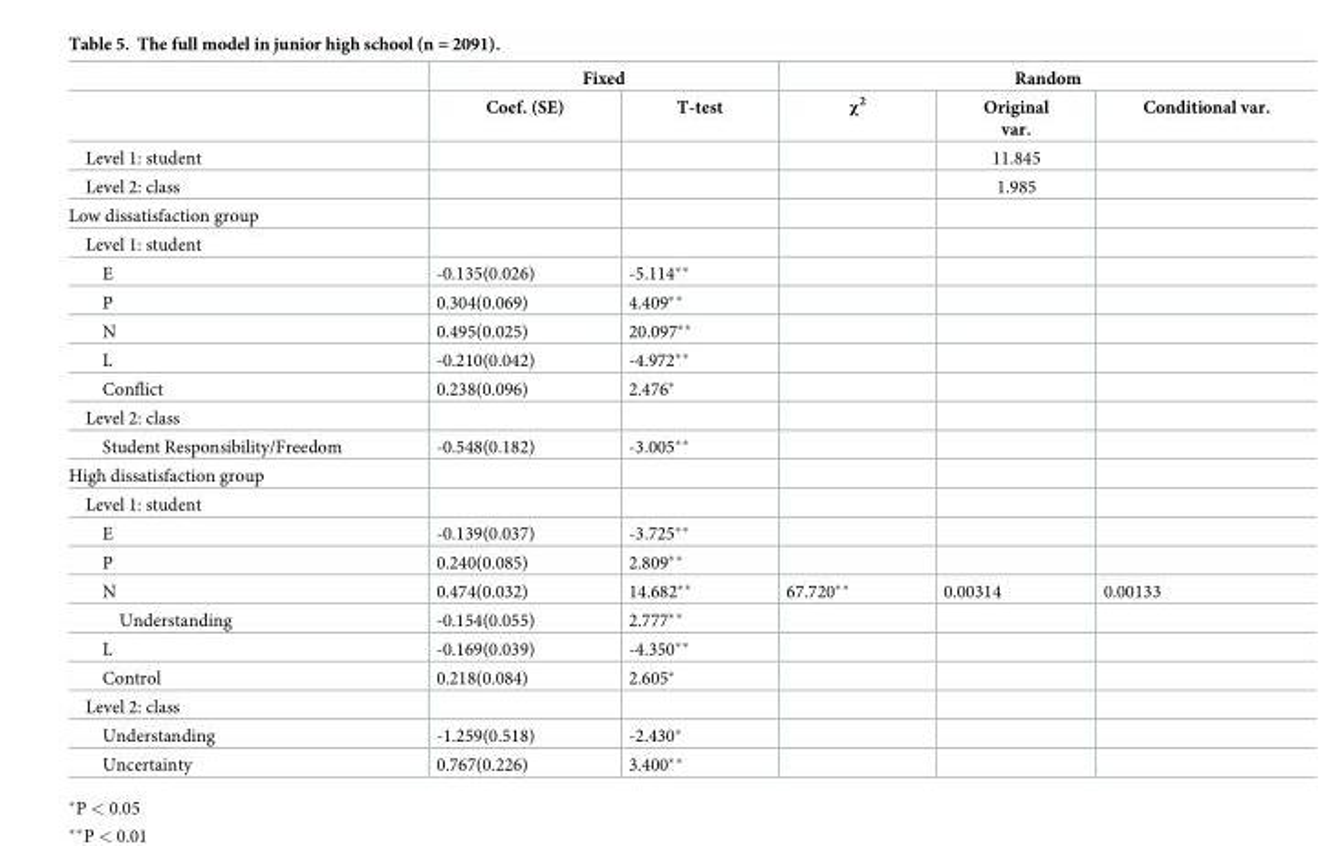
<table><thead><tr><td rowspan="2"></td><td colspan="2">Fixed</td><td colspan="3">Random</td></tr><tr><td>Coef. (SE)</td><td>T-test</td><td>χ<sup>2</sup></td><td>Original var.</td><td>Conditional var.</td></tr></thead><tbody><tr><td>Level 1: student</td><td></td><td></td><td></td><td>11.845</td><td></td></tr><tr><td>Level 2: class</td><td></td><td></td><td></td><td>1.985</td><td></td></tr><tr><td colspan="6">Low dissatisfaction group</td></tr><tr><td colspan="6">Level 1: student</td></tr><tr><td>E</td><td>-0.135(0.026)</td><td>-5.114**</td><td></td><td></td><td></td></tr><tr><td>P</td><td>0.304(0.069)</td><td>4.409**</td><td></td><td></td><td></td></tr><tr><td>N</td><td>0.495(0.025)</td><td>20.097**</td><td></td><td></td><td></td></tr><tr><td>L</td><td>-0.210(0.042)</td><td>-4.972**</td><td></td><td></td><td></td></tr><tr><td>Conflict</td><td>0.238(0.096)</td><td>2.476*</td><td></td><td></td><td></td></tr><tr><td colspan="6">Level 2: class</td></tr><tr><td>Student Responsibility/Freedom</td><td>-0.548(0.182)</td><td>-3.005**</td><td></td><td></td><td></td></tr><tr><td colspan="6">High dissatisfaction group</td></tr><tr><td colspan="6">Level 1: student</td></tr><tr><td>E</td><td>-0.139(0.037)</td><td>-3.725**</td><td></td><td></td><td></td></tr><tr><td>P</td><td>0.240(0.085)</td><td>2.809**</td><td></td><td></td><td></td></tr><tr><td>N</td><td>0.474(0.032)</td><td>14.682**</td><td>67.720**</td><td>0.00314</td><td>0.00133</td></tr><tr><td>Understanding</td><td>-0.154(0.055)</td><td>2.777**</td><td></td><td></td><td></td></tr><tr><td>L</td><td>-0.169(0.039)</td><td>-4.350**</td><td></td><td></td><td></td></tr><tr><td>Control</td><td>0.218(0.084)</td><td>2.605*</td><td></td><td></td><td></td></tr><tr><td colspan="6">Level 2: class</td></tr><tr><td>Understanding</td><td>-1.259(0.518)</td><td>-2.430*</td><td></td><td></td><td></td></tr><tr><td>Uncertainty</td><td>0.767(0.226)</td><td>3.400**</td><td></td><td></td><td></td></tr></tbody></table>